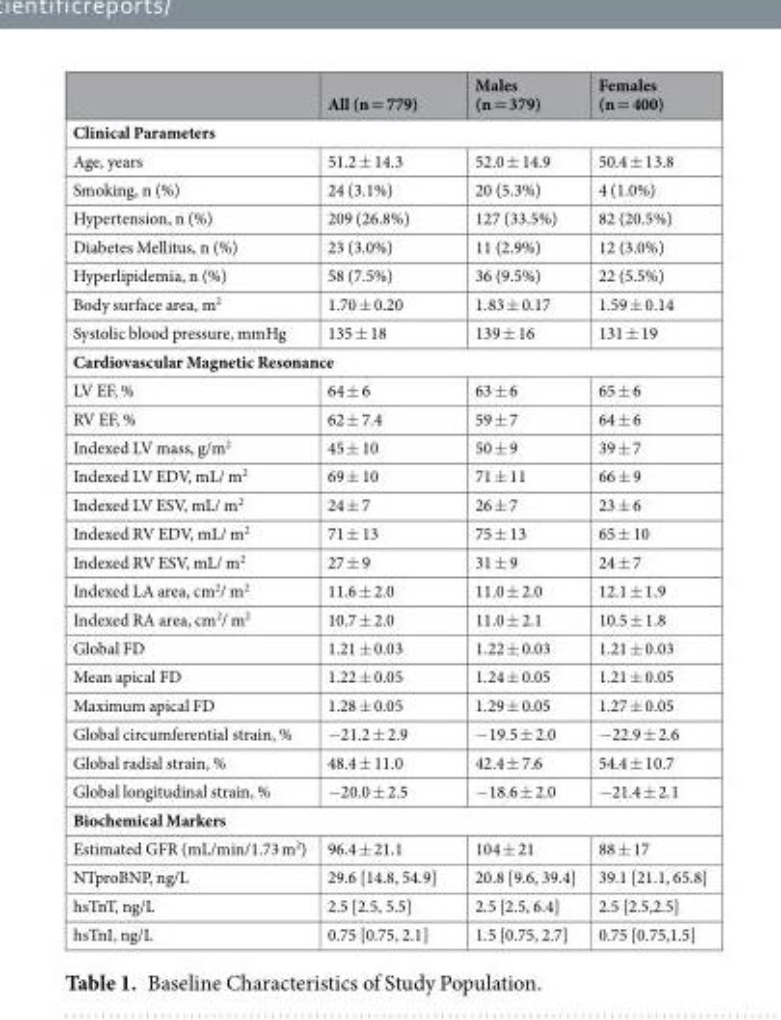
<table><thead><tr><td></td><td>All (n = 779)</td><td>Males (n = 379)</td><td>Females (n = 400)</td></tr></thead><tbody><tr><td colspan="4">Clinical Parameters</td></tr><tr><td>Age, years</td><td>51.2 ± 14.3</td><td>52.0 ± 14.9</td><td>50.4 ± 13.8</td></tr><tr><td>Smoking, n (%)</td><td>24 (3.1%)</td><td>20 (5.3%)</td><td>4 (1.0%)</td></tr><tr><td>Hypertension, n (%)</td><td>209 (26.8%)</td><td>127 (33.5%)</td><td>82 (20.5%)</td></tr><tr><td>Diabetes Mellitus, n (%)</td><td>23 (3.0%)</td><td>11 (2.9%)</td><td>12 (3.0%)</td></tr><tr><td>Hyperlipidemia, n (%)</td><td>58 (7.5%)</td><td>36 (9.5%)</td><td>22 (5.5%)</td></tr><tr><td>Body surface area, m<sup>2</sup></td><td>1.70 ± 0.20</td><td>1.83 ± 0.17</td><td>1.59 ± 0.14</td></tr><tr><td>Systolic blood pressure, mmHg</td><td>135 ± 18</td><td>139 ± 16</td><td>131 ± 19</td></tr><tr><td colspan="4">Cardiovascular Magnetic Resonance</td></tr><tr><td>LV EF, %</td><td>64 ± 6</td><td>63 ± 6</td><td>65 ± 6</td></tr><tr><td>RV EF, %</td><td>62 ± 7.4</td><td>59 ± 7</td><td>64 ± 6</td></tr><tr><td>Indexed LV mass, g/m<sup>2</sup></td><td>45 ± 10</td><td>50 ± 9</td><td>39 ± 7</td></tr><tr><td>Indexed LV EDV, mL/ m<sup>2</sup></td><td>69 ± 10</td><td>71 ± 11</td><td>66 ± 9</td></tr><tr><td>Indexed LV ESV, mL/ m<sup>2</sup></td><td>24 ± 7</td><td>26 ± 7</td><td>23 ± 6</td></tr><tr><td>Indexed RV EDV, mL/ m<sup>2</sup></td><td>71 ± 13</td><td>75 ± 13</td><td>65 ± 10</td></tr><tr><td>Indexed RV ESV, mL/ m<sup>2</sup></td><td>27 ± 9</td><td>31 ± 9</td><td>24 ± 7</td></tr><tr><td>Indexed LA area, cm<sup>2</sup>/ m<sup>2</sup></td><td>11.6 ± 2.0</td><td>11.0 ± 2.0</td><td>12.1 ± 1.9</td></tr><tr><td>Indexed RA area, cm<sup>2</sup>/ m<sup>2</sup></td><td>10.7 ± 2.0</td><td>11.0 ± 2.1</td><td>10.5 ± 1.8</td></tr><tr><td>Global FD</td><td>1.21 ± 0.03</td><td>1.22 ± 0.03</td><td>1.21 ± 0.03</td></tr><tr><td>Mean apical FD</td><td>1.22 ± 0.05</td><td>1.24 ± 0.05</td><td>1.21 ± 0.05</td></tr><tr><td>Maximum apical FD</td><td>1.28 ± 0.05</td><td>1.29 ± 0.05</td><td>1.27 ± 0.05</td></tr><tr><td>Global circumferential strain, %</td><td>−21.2 ± 2.9</td><td>−19.5 ± 2.0</td><td>−22.9 ± 2.6</td></tr><tr><td>Global radial strain, %</td><td>48.4 ± 11.0</td><td>42.4 ± 7.6</td><td>54.4 ± 10.7</td></tr><tr><td>Global longitudinal strain, %</td><td>−20.0 ± 2.5</td><td>−18.6 ± 2.0</td><td>−21.4 ± 2.1</td></tr><tr><td colspan="4">Biochemical Markers</td></tr><tr><td>Estimated GFR (mL/min/1.73 m<sup>2</sup>)</td><td>96.4 ± 21.1</td><td>104 ± 21</td><td>88 ± 17</td></tr><tr><td>NTproBNP, ng/L</td><td>29.6 [14.8, 54.9]</td><td>20.8 [9.6, 39.4]</td><td>39.1 [21.1, 65.8]</td></tr><tr><td>hsTnT, ng/L</td><td>2.5 [2.5, 5.5]</td><td>2.5 [2.5, 6.4]</td><td>2.5 [2.5,2.5]</td></tr><tr><td>hsTnI, ng/L</td><td>0.75 [0.75, 2.1]</td><td>1.5 [0.75, 2.7]</td><td>0.75 [0.75,1.5]</td></tr></tbody></table>